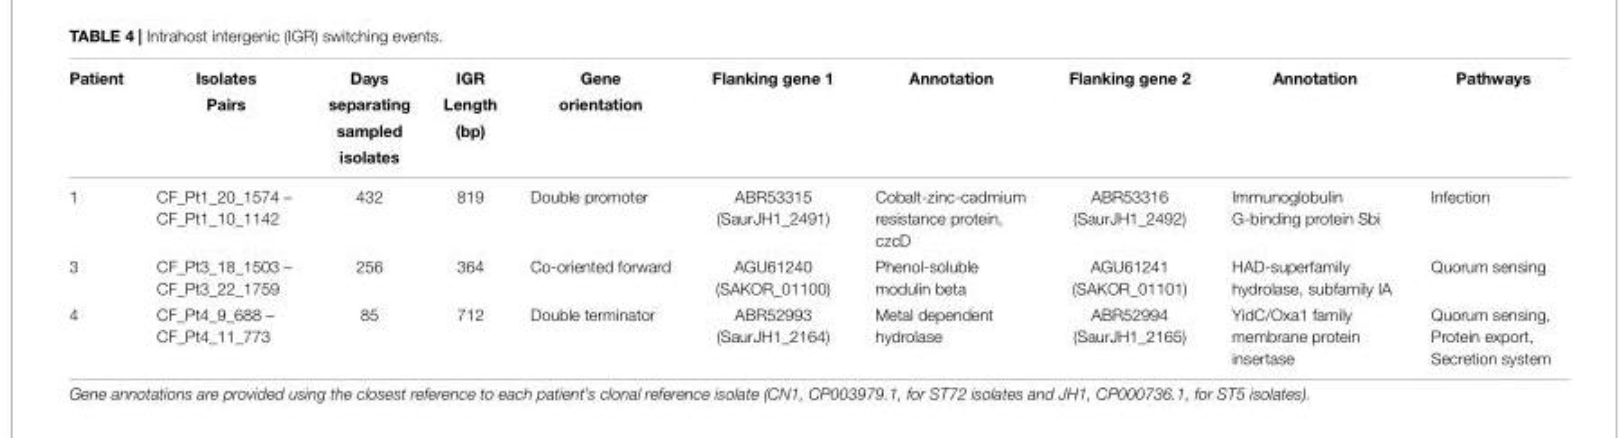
<table><thead><tr><td rowspan="4">Patient</td><td rowspan="4">Isolates Pairs</td><td rowspan="4">Days separating sampled isolates</td><td rowspan="4">IGR Length (bp)</td><td rowspan="4">Gene orientation</td><td rowspan="4">Flanking gene 1</td><td rowspan="4">Annotation</td><td rowspan="4">Flanking gene 2</td><td rowspan="4">Annotation</td><td rowspan="4">Pathways</td></tr><tr></tr><tr></tr><tr></tr></thead><tbody><tr><td>1</td><td>CF_Pt1_20_1574 – CF_Pt1_10_1142</td><td>432</td><td>819</td><td>Double promoter</td><td>ABR53315 (SaurJH1_2491)</td><td>Cobalt-zinc-cadmium resistance protein, czcD</td><td>ABR53316 (SaurJH1_2492)</td><td>Immunoglobulin G-binding protein Sbi</td><td>Infection</td></tr><tr><td>3</td><td>CF_Pt3_18_1503 – CF_Pt3_22_1759</td><td>256</td><td>364</td><td>Co-oriented forward</td><td>AGU61240 (SAKOR_01100)</td><td>Phenol-soluble modulin beta</td><td>AGU61241 (SAKOR_01101)</td><td>HAD-superfamily hydrolase, subfamily IA</td><td>Quorum sensing</td></tr><tr><td>4</td><td>CF_Pt4_9_688 – CF_Pt4_11_773</td><td>85</td><td>712</td><td>Double terminator</td><td>ABR52993 (SaurJH1_2164)</td><td>Metal dependent hydrolase</td><td>ABR52994 (SaurJH1_2165)</td><td>YidC/Oxa1 family membrane protein insertase</td><td>Quorum sensing, Protein export, Secretion system</td></tr></tbody></table>